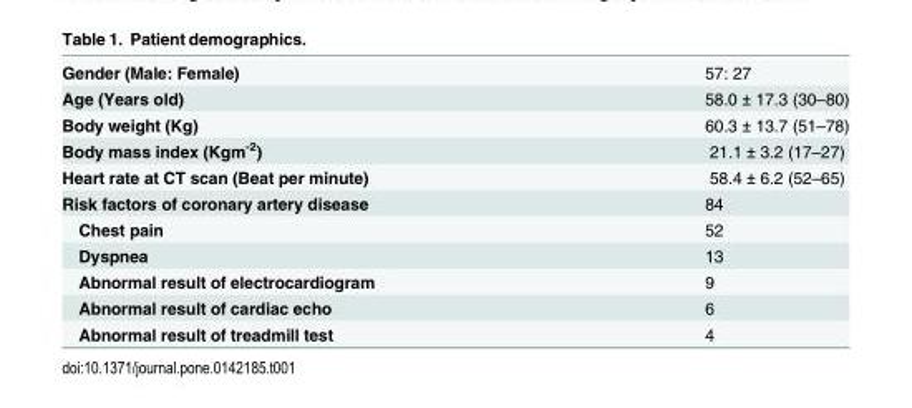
<table><tbody><tr><td>Gender (Male: Female)</td><td>57: 27</td></tr><tr><td>Age (Years old)</td><td>58.0 ± 17.3 (30–80)</td></tr><tr><td>Body weight (Kg)</td><td>60.3 ± 13.7 (51–78)</td></tr><tr><td>Body mass index (Kgm<sup>-2</sup>)</td><td>21.1 ± 3.2 (17–27)</td></tr><tr><td>Heart rate at CT scan (Beat per minute)</td><td>58.4 ± 6.2 (52–65)</td></tr><tr><td>Risk factors of coronary artery disease</td><td>84</td></tr><tr><td>Chest pain</td><td>52</td></tr><tr><td>Dyspnea</td><td>13</td></tr><tr><td>Abnormal result of electrocardiogram</td><td>9</td></tr><tr><td>Abnormal result of cardiac echo</td><td>6</td></tr><tr><td>Abnormal result of treadmill test</td><td>4</td></tr></tbody></table>